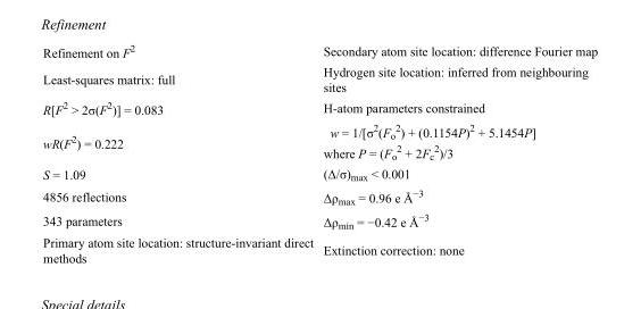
<table><tbody><tr><td>Refinement on F<sup>2</sup></td><td>Secondary atom site location: difference Fourier map</td></tr><tr><td>Least-squares matrix: full</td><td>Hydrogen site location: inferred from neighbouring sites</td></tr><tr><td>R[F<sup>2</sup> &gt; 2σ(F<sup>2</sup>)] = 0.083</td><td>H-atom parameters constrained</td></tr><tr><td>wR(F<sup>2</sup>) = 0.222</td><td>w = 1/[σ<sup>2</sup>(F<sub>o</sub> <sup>2</sup>) + (0.1154P)<sup>2</sup> + 5.1454P] where P = (F<sub>o</sub> <sup>2</sup> + 2F<sub>c</sub> <sup>2</sup>)/3</td></tr><tr><td>S = 1.09</td><td>(Δ/σ)<sub>max</sub> &lt; 0.001</td></tr><tr><td>4856 reflections</td><td>Δρ<sub>max</sub> = 0.96 e Å<sup>−3</sup></td></tr><tr><td>343 parameters</td><td>Δρ<sub>min</sub> = −0.42 e Å<sup>−3</sup></td></tr><tr><td>Primary atom site location: structure-invariant direct methods</td><td>Extinction correction: none</td></tr></tbody></table>